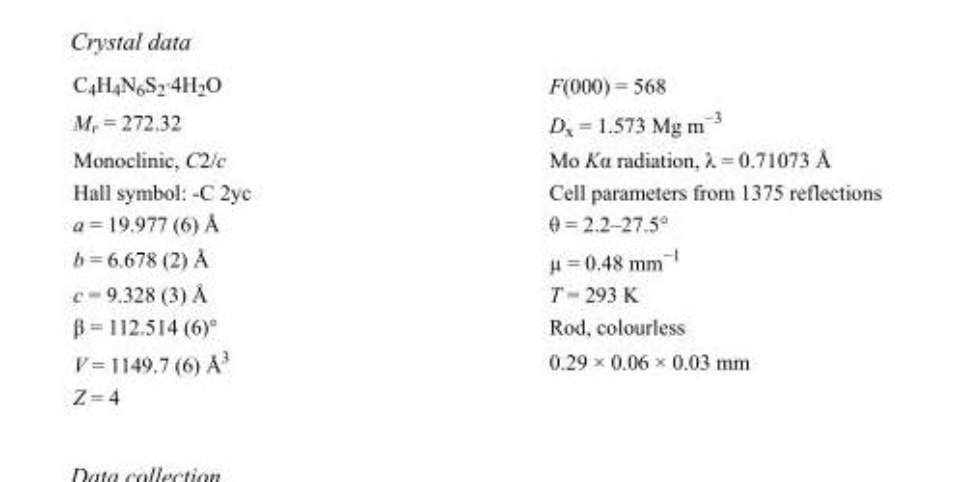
<table><tbody><tr><td>C<sub>4</sub>H<sub>4</sub>N<sub>6</sub>S<sub>2</sub>·4H<sub>2</sub>O</td><td>F(000) = 568</td></tr><tr><td>M<sub>r</sub> = 272.32</td><td>D<sub>x</sub> = 1.573 Mg m<sup>−3</sup></td></tr><tr><td>Monoclinic, C2/c</td><td>Mo Kα radiation, λ = 0.71073 Å</td></tr><tr><td>Hall symbol: -C 2yc</td><td>Cell parameters from 1375 reflections</td></tr><tr><td>a = 19.977 (6) Å</td><td>θ = 2.2–27.5°</td></tr><tr><td>b = 6.678 (2) Å</td><td>µ = 0.48 mm<sup>−1</sup></td></tr><tr><td>c = 9.328 (3) Å</td><td>T = 293 K</td></tr><tr><td>β = 112.514 (6)°</td><td>Rod, colourless</td></tr><tr><td>V = 1149.7 (6) Å<sup>3</sup></td><td>0.29 × 0.06 × 0.03 mm</td></tr><tr><td>Z = 4</td><td></td></tr></tbody></table>